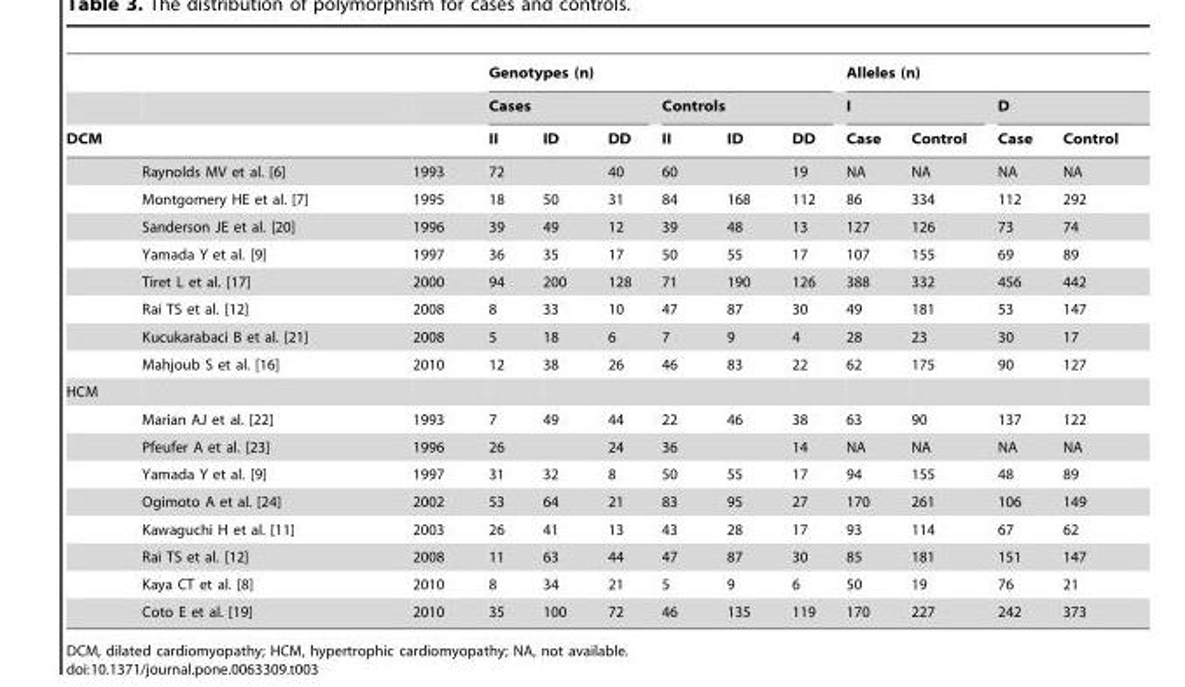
<table><thead><tr><td rowspan="3">DCM</td><td rowspan="3"></td><td rowspan="3"></td><td colspan="6">Genotypes (n)</td><td colspan="4">Alleles (n)</td></tr><tr><td colspan="3">Cases</td><td colspan="3">Controls</td><td colspan="2">I</td><td colspan="2">D</td></tr><tr><td>II</td><td>ID</td><td>DD</td><td>II</td><td>ID</td><td>DD</td><td>Case</td><td>Control</td><td>Case</td><td>Control</td></tr></thead><tbody><tr><td></td><td>Raynolds MV et al. [6]</td><td>1993</td><td colspan="2">72</td><td>40</td><td colspan="2">60</td><td>19</td><td>NA</td><td>NA</td><td>NA</td><td>NA</td></tr><tr><td></td><td>Montgomery HE et al. [7]</td><td>1995</td><td>18</td><td>50</td><td>31</td><td>84</td><td>168</td><td>112</td><td>86</td><td>334</td><td>112</td><td>292</td></tr><tr><td></td><td>Sanderson JE et al. [20]</td><td>1996</td><td>39</td><td>49</td><td>12</td><td>39</td><td>48</td><td>13</td><td>127</td><td>126</td><td>73</td><td>74</td></tr><tr><td></td><td>Yamada Y et al. [9]</td><td>1997</td><td>36</td><td>35</td><td>17</td><td>50</td><td>55</td><td>17</td><td>107</td><td>155</td><td>69</td><td>89</td></tr><tr><td></td><td>Tiret L et al. [17]</td><td>2000</td><td>94</td><td>200</td><td>128</td><td>71</td><td>190</td><td>126</td><td>388</td><td>332</td><td>456</td><td>442</td></tr><tr><td></td><td>Rai TS et al. [12]</td><td>2008</td><td>8</td><td>33</td><td>10</td><td>47</td><td>87</td><td>30</td><td>49</td><td>181</td><td>53</td><td>147</td></tr><tr><td></td><td>Kucukarabaci B et al. [21]</td><td>2008</td><td>5</td><td>18</td><td>6</td><td>7</td><td>9</td><td>4</td><td>28</td><td>23</td><td>30</td><td>17</td></tr><tr><td></td><td>Mahjoub S et al. [16]</td><td>2010</td><td>12</td><td>38</td><td>26</td><td>46</td><td>83</td><td>22</td><td>62</td><td>175</td><td>90</td><td>127</td></tr><tr><td colspan="13">HCM</td></tr><tr><td></td><td>Marian AJ et al. [22]</td><td>1993</td><td>7</td><td>49</td><td>44</td><td>22</td><td>46</td><td>38</td><td>63</td><td>90</td><td>137</td><td>122</td></tr><tr><td></td><td>Pfeufer A et al. [23]</td><td>1996</td><td colspan="2">26</td><td>24</td><td colspan="2">36</td><td>14</td><td>NA</td><td>NA</td><td>NA</td><td>NA</td></tr><tr><td></td><td>Yamada Y et al. [9]</td><td>1997</td><td>31</td><td>32</td><td>8</td><td>50</td><td>55</td><td>17</td><td>94</td><td>155</td><td>48</td><td>89</td></tr><tr><td></td><td>Ogimoto A et al. [24]</td><td>2002</td><td>53</td><td>64</td><td>21</td><td>83</td><td>95</td><td>27</td><td>170</td><td>261</td><td>106</td><td>149</td></tr><tr><td></td><td>Kawaguchi H et al. [11]</td><td>2003</td><td>26</td><td>41</td><td>13</td><td>43</td><td>28</td><td>17</td><td>93</td><td>114</td><td>67</td><td>62</td></tr><tr><td></td><td>Rai TS et al. [12]</td><td>2008</td><td>11</td><td>63</td><td>44</td><td>47</td><td>87</td><td>30</td><td>85</td><td>181</td><td>151</td><td>147</td></tr><tr><td></td><td>Kaya CT et al. [8]</td><td>2010</td><td>8</td><td>34</td><td>21</td><td>5</td><td>9</td><td>6</td><td>50</td><td>19</td><td>76</td><td>21</td></tr><tr><td></td><td>Coto E et al. [19]</td><td>2010</td><td>35</td><td>100</td><td>72</td><td>46</td><td>135</td><td>119</td><td>170</td><td>227</td><td>242</td><td>373</td></tr></tbody></table>